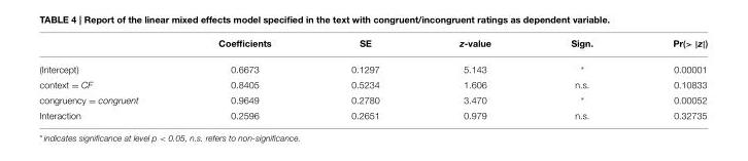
<table><thead><tr><td></td><td>Coefficients</td><td>SE</td><td>z-value</td><td>Sign.</td><td>Pr(&gt; |z|)</td></tr></thead><tbody><tr><td>(Intercept)</td><td>0.6673</td><td>0.1297</td><td>5.143</td><td>*</td><td>0.00001</td></tr><tr><td>context = CF</td><td>0.8405</td><td>0.5234</td><td>1.606</td><td>n.s.</td><td>0.10833</td></tr><tr><td>congruency = congruent</td><td>0.9649</td><td>0.2780</td><td>3.470</td><td>*</td><td>0.00052</td></tr><tr><td>Interaction</td><td>0.2596</td><td>0.2651</td><td>0.979</td><td>n.s.</td><td>0.32735</td></tr></tbody></table>